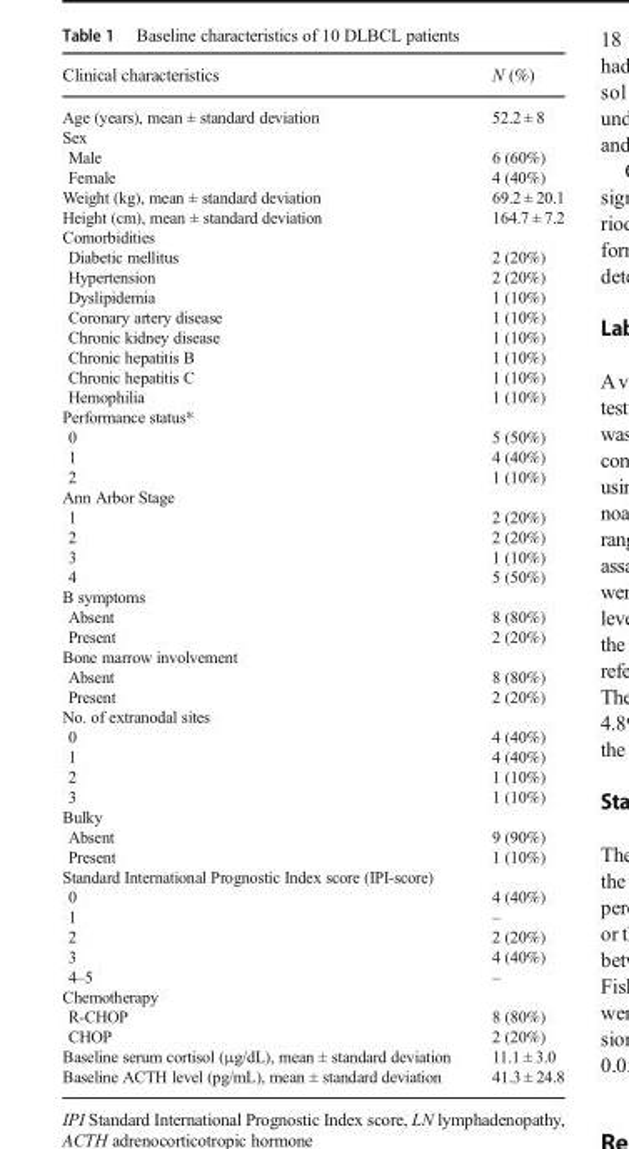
<table><thead><tr><td>Clinical characteristics</td><td>N (%)</td></tr></thead><tbody><tr><td>Age (years), mean ± standard deviation</td><td>52.2 ± 8</td></tr><tr><td colspan="2">Sex</td></tr><tr><td>Male</td><td>6 (60%)</td></tr><tr><td>Female</td><td>4 (40%)</td></tr><tr><td>Weight (kg), mean ± standard deviation</td><td>69.2 ± 20.1</td></tr><tr><td>Height (cm), mean ± standard deviation</td><td>164.7 ± 7.2</td></tr><tr><td colspan="2">Comorbidities</td></tr><tr><td>Diabetic mellitus</td><td>2 (20%)</td></tr><tr><td>Hypertension</td><td>2 (20%)</td></tr><tr><td>Dyslipidemia</td><td>1 (10%)</td></tr><tr><td>Coronary artery disease</td><td>1 (10%)</td></tr><tr><td>Chronic kidney disease</td><td>1 (10%)</td></tr><tr><td>Chronic hepatitis B</td><td>1 (10%)</td></tr><tr><td>Chronic hepatitis C</td><td>1 (10%)</td></tr><tr><td>Hemophilia</td><td>1 (10%)</td></tr><tr><td colspan="2">Performance status*</td></tr><tr><td>0</td><td>5 (50%)</td></tr><tr><td>1</td><td>4 (40%)</td></tr><tr><td>2</td><td>1 (10%)</td></tr><tr><td colspan="2">Ann Arbor Stage</td></tr><tr><td>1</td><td>2 (20%)</td></tr><tr><td>2</td><td>2 (20%)</td></tr><tr><td>3</td><td>1 (10%)</td></tr><tr><td>4</td><td>5 (50%)</td></tr><tr><td colspan="2">B symptoms</td></tr><tr><td>Absent</td><td>8 (80%)</td></tr><tr><td>Present</td><td>2 (20%)</td></tr><tr><td colspan="2">Bone marrow involvement</td></tr><tr><td>Absent</td><td>8 (80%)</td></tr><tr><td>Present</td><td>2 (20%)</td></tr><tr><td colspan="2">No. of extranodal sites</td></tr><tr><td>0</td><td>4 (40%)</td></tr><tr><td>1</td><td>4 (40%)</td></tr><tr><td>2</td><td>1 (10%)</td></tr><tr><td>3</td><td>1 (10%)</td></tr><tr><td colspan="2">Bulky</td></tr><tr><td>Absent</td><td>9 (90%)</td></tr><tr><td>Present</td><td>1 (10%)</td></tr><tr><td colspan="2">Standard International Prognostic Index score (IPI-score)</td></tr><tr><td>0</td><td>4 (40%)</td></tr><tr><td>1</td><td>–</td></tr><tr><td>2</td><td>2 (20%)</td></tr><tr><td>3</td><td>4 (40%)</td></tr><tr><td>4–5</td><td>–</td></tr><tr><td colspan="2">Chemotherapy</td></tr><tr><td>R-CHOP</td><td>8 (80%)</td></tr><tr><td>CHOP</td><td>2 (20%)</td></tr><tr><td>Baseline serum cortisol (μg/dL), mean ± standard deviation</td><td>11.1 ± 3.0</td></tr><tr><td>Baseline ACTH level (pg/mL), mean ± standard deviation</td><td>41.3 ± 24.8</td></tr></tbody></table>